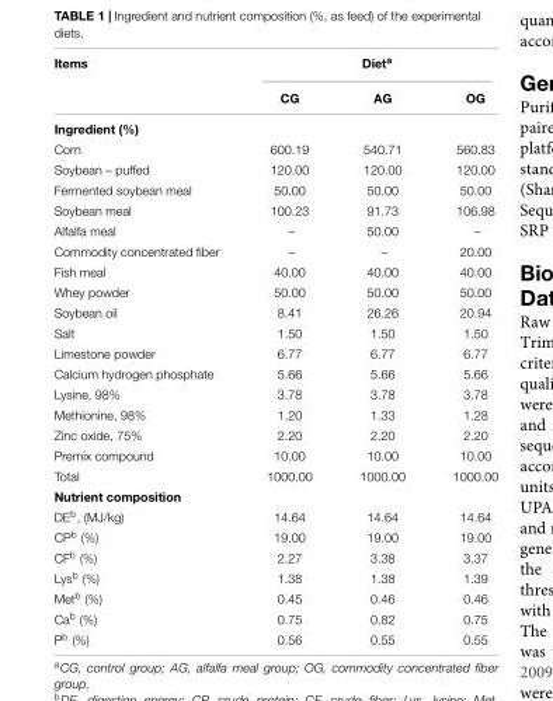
<table><thead><tr><td rowspan="2">Items</td><td colspan="3">Diet<sup>a</sup></td></tr><tr><td>CG</td><td>AG</td><td>OG</td></tr></thead><tbody><tr><td colspan="4">Ingredient (%)</td></tr><tr><td>Corn</td><td>600.19</td><td>540.71</td><td>560.83</td></tr><tr><td>Soybean – puffed</td><td>120.00</td><td>120.00</td><td>120.00</td></tr><tr><td>Fermented soybean meal</td><td>50.00</td><td>50.00</td><td>50.00</td></tr><tr><td>Soybean meal</td><td>100.23</td><td>91.73</td><td>106.98</td></tr><tr><td>Alfalfa meal</td><td>–</td><td>50.00</td><td>–</td></tr><tr><td>Commodity concentrated fiber</td><td>–</td><td>–</td><td>20.00</td></tr><tr><td>Fish meal</td><td>40.00</td><td>40.00</td><td>40.00</td></tr><tr><td>Whey powder</td><td>50.00</td><td>50.00</td><td>50.00</td></tr><tr><td>Soybean oil</td><td>8.41</td><td>26.26</td><td>20.94</td></tr><tr><td>Salt</td><td>1.50</td><td>1.50</td><td>1.50</td></tr><tr><td>Limestone powder</td><td>6.77</td><td>6.77</td><td>6.77</td></tr><tr><td>Calcium hydrogen phosphate</td><td>5.66</td><td>5.66</td><td>5.66</td></tr><tr><td>Lysine, 98%</td><td>3.78</td><td>3.78</td><td>3.78</td></tr><tr><td>Methionine, 98%</td><td>1.20</td><td>1.33</td><td>1.28</td></tr><tr><td>Zinc oxide, 75%</td><td>2.20</td><td>2.20</td><td>2.20</td></tr><tr><td>Premix compound</td><td>10.00</td><td>10.00</td><td>10.00</td></tr><tr><td>Total</td><td>1000.00</td><td>1000.00</td><td>1000.00</td></tr><tr><td colspan="4">Nutrient composition</td></tr><tr><td>DE<sup>b</sup>, (MJ/kg)</td><td>14.64</td><td>14.64</td><td>14.64</td></tr><tr><td>CP<sup>b</sup> (%)</td><td>19.00</td><td>19.00</td><td>19.00</td></tr><tr><td>CF<sup>b</sup> (%)</td><td>2.27</td><td>3.38</td><td>3.37</td></tr><tr><td>Lys<sup>b</sup> (%)</td><td>1.38</td><td>1.38</td><td>1.39</td></tr><tr><td>Met<sup>b</sup> (%)</td><td>0.45</td><td>0.46</td><td>0.46</td></tr><tr><td>Ca<sup>b</sup> (%)</td><td>0.75</td><td>0.82</td><td>0.75</td></tr><tr><td>P<sup>b</sup> (%)</td><td>0.56</td><td>0.55</td><td>0.55</td></tr></tbody></table>